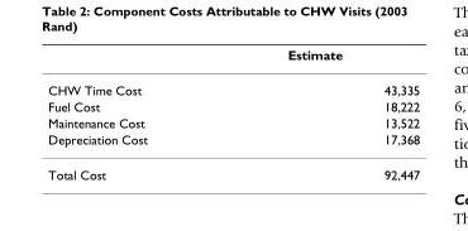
<table><thead><tr><td></td><td>Estimate</td></tr></thead><tbody><tr><td>CHW Time Cost</td><td>43,335</td></tr><tr><td>Fuel Cost</td><td>18,222</td></tr><tr><td>Maintenance Cost</td><td>13,522</td></tr><tr><td>Depreciation Cost</td><td>17,368</td></tr><tr><td>Total Cost</td><td>92,447</td></tr></tbody></table>